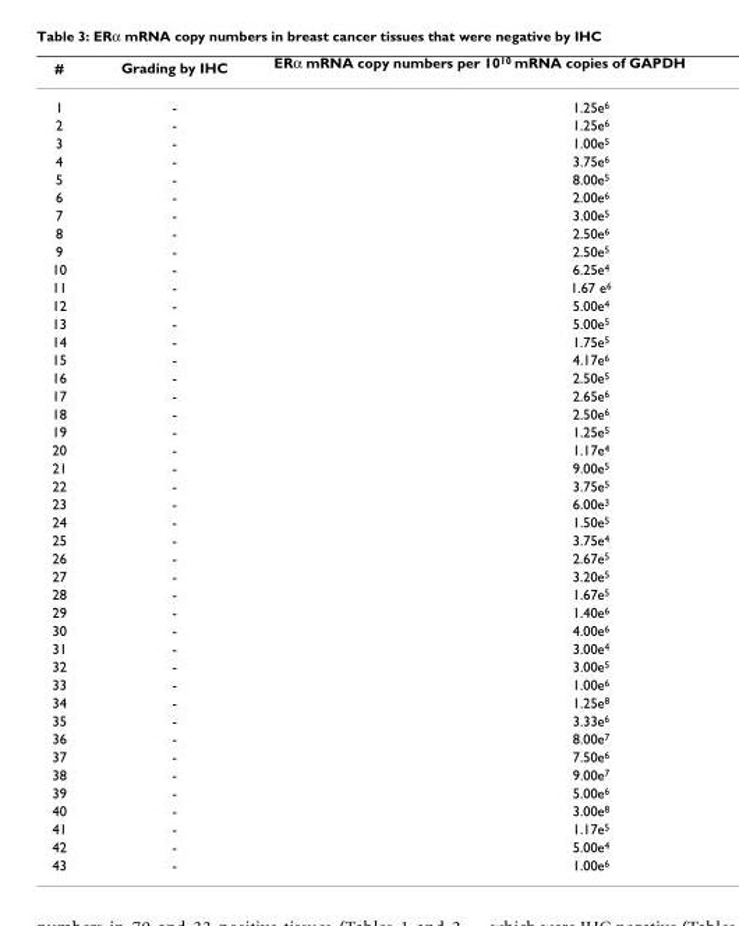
<table><thead><tr><td>#</td><td>Grading by IHC</td><td>ERα mRNA copy numbers per 1010 mRNA copies of GAPDH</td></tr></thead><tbody><tr><td>1</td><td>-</td><td>1.25e6</td></tr><tr><td>2</td><td>-</td><td>1.25e6</td></tr><tr><td>3</td><td>-</td><td>1.00e5</td></tr><tr><td>4</td><td>-</td><td>3.75e6</td></tr><tr><td>5</td><td>-</td><td>8.00e5</td></tr><tr><td>6</td><td>-</td><td>2.00e6</td></tr><tr><td>7</td><td>-</td><td>3.00e5</td></tr><tr><td>8</td><td>-</td><td>2.50e6</td></tr><tr><td>9</td><td>-</td><td>2.50e5</td></tr><tr><td>10</td><td>-</td><td>6.25e4</td></tr><tr><td>11</td><td>-</td><td>1.67 e6</td></tr><tr><td>12</td><td>-</td><td>5.00e4</td></tr><tr><td>13</td><td>-</td><td>5.00e5</td></tr><tr><td>14</td><td>-</td><td>1.75e5</td></tr><tr><td>15</td><td>-</td><td>4.17e6</td></tr><tr><td>16</td><td>-</td><td>2.50e5</td></tr><tr><td>17</td><td>-</td><td>2.65e6</td></tr><tr><td>18</td><td>-</td><td>2.50e6</td></tr><tr><td>19</td><td>-</td><td>1.25e5</td></tr><tr><td>20</td><td>-</td><td>1.17e4</td></tr><tr><td>21</td><td>-</td><td>9.00e5</td></tr><tr><td>22</td><td>-</td><td>3.75e5</td></tr><tr><td>23</td><td>-</td><td>6.00e3</td></tr><tr><td>24</td><td>-</td><td>1.50e5</td></tr><tr><td>25</td><td>-</td><td>3.75e4</td></tr><tr><td>26</td><td>-</td><td>2.67e5</td></tr><tr><td>27</td><td>-</td><td>3.20e5</td></tr><tr><td>28</td><td>-</td><td>1.67e5</td></tr><tr><td>29</td><td>-</td><td>1.40e6</td></tr><tr><td>30</td><td>-</td><td>4.00e6</td></tr><tr><td>31</td><td>-</td><td>3.00e4</td></tr><tr><td>32</td><td>-</td><td>3.00e5</td></tr><tr><td>33</td><td>-</td><td>1.00e6</td></tr><tr><td>34</td><td>-</td><td>1.25e8</td></tr><tr><td>35</td><td>-</td><td>3.33e6</td></tr><tr><td>36</td><td>-</td><td>8.00e7</td></tr><tr><td>37</td><td>-</td><td>7.50e6</td></tr><tr><td>38</td><td>-</td><td>9.00e7</td></tr><tr><td>39</td><td>-</td><td>5.00e6</td></tr><tr><td>40</td><td>-</td><td>3.00e8</td></tr><tr><td>41</td><td>-</td><td>1.17e5</td></tr><tr><td>42</td><td>-</td><td>5.00e4</td></tr><tr><td>43</td><td>-</td><td>1.00e6</td></tr></tbody></table>